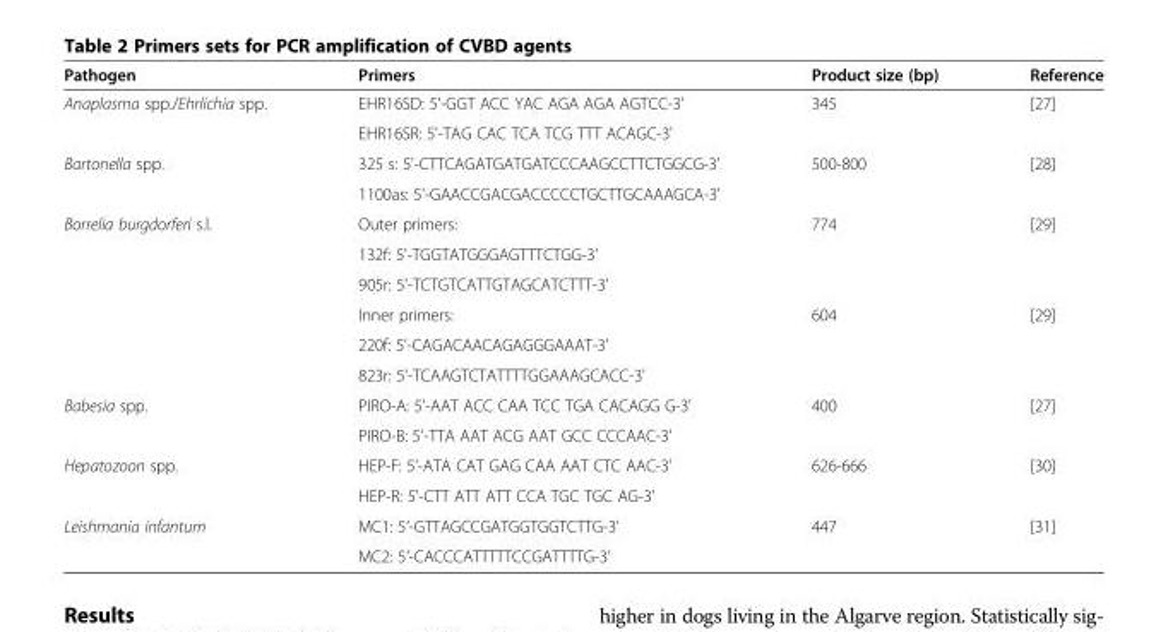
<table><thead><tr><td>Pathogen</td><td>Primers</td><td>Product size (bp)</td><td>Reference</td></tr></thead><tbody><tr><td rowspan="2">Anaplasma spp./Ehrlichia spp.</td><td>EHR16SD: 5&#x27;-GGT ACC YAC AGA AGA AGTCC-3&#x27;</td><td rowspan="2">345</td><td rowspan="2">[27]</td></tr><tr><td>EHR16SR: 5&#x27;-TAG CAC TCA TCG TTT ACAGC-3&#x27;</td></tr><tr><td rowspan="2">Bartonella spp.</td><td>325 s: 5&#x27;-CTTCAGATGATGATCCCAAGCCTTCTGGCG-3&#x27;</td><td rowspan="2">500-800</td><td rowspan="2">[28]</td></tr><tr><td>1100as: 5&#x27;-GAACCGACGACCCCCTGCTTGCAAAGCA-3&#x27;</td></tr><tr><td rowspan="6">Borrelia burgdorferi s.l.</td><td>Outer primers:</td><td rowspan="3">774</td><td>[29]</td></tr><tr><td>132f: 5&#x27;-TGGTATGGGAGTTTCTGG-3&#x27;</td><td></td></tr><tr><td>905r: 5&#x27;-TCTGTCATTGTAGCATCTTT-3&#x27;</td><td></td></tr><tr><td>Inner primers:</td><td rowspan="3">604</td><td>[29]</td></tr><tr><td>220f: 5&#x27;-CAGACAACAGAGGGAAAT-3&#x27;</td><td></td></tr><tr><td>823r: 5&#x27;-TCAAGTCTATTTTGGAAAGCACC-3&#x27;</td><td></td></tr><tr><td rowspan="2">Babesia spp.</td><td>PIRO-A: 5&#x27;-AAT ACC CAA TCC TGA CACAGG G-3&#x27;</td><td rowspan="2">400</td><td rowspan="2">[27]</td></tr><tr><td>PIRO-B: 5&#x27;-TTA AAT ACG AAT GCC CCCAAC-3&#x27;</td></tr><tr><td rowspan="2">Hepatozoon spp.</td><td>HEP-F: 5&#x27;-ATA CAT GAG CAA AAT CTC AAC-3&#x27;</td><td rowspan="2">626-666</td><td rowspan="2">[30]</td></tr><tr><td>HEP-R: 5&#x27;-CTT ATT ATT CCA TGC TGC AG-3&#x27;</td></tr><tr><td rowspan="2">Leishmania infantum</td><td>MC1: 5’-GTTAGCCGATGGTGGTCTTG-3’</td><td rowspan="2">447</td><td rowspan="2">[31]</td></tr><tr><td>MC2: 5’-CACCCATTTTTCCGATTTTG-3’</td></tr></tbody></table>